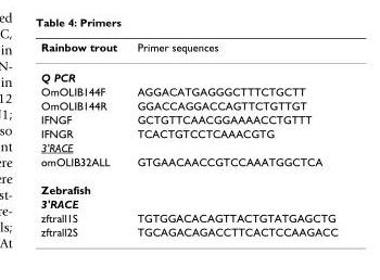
<table><thead><tr><td>Rainbow trout</td><td>Primer sequences</td></tr></thead><tbody><tr><td colspan="2">Q PCR</td></tr><tr><td>OmOLIB144F</td><td>AGGACATGAGGGCTTTCTGCTT</td></tr><tr><td>OmOLIB144R</td><td>GGACCAGGACCAGTTCTGTTGT</td></tr><tr><td>IFNGF</td><td>GCTGTTCAACGGAAAACCTGTTT</td></tr><tr><td>IFNGR</td><td>TCACTGTCCTCAAACGTG</td></tr><tr><td colspan="2">3&#x27;RACE</td></tr><tr><td>omOLIB32ALL</td><td>GTGAACAACCGTCCAAATGGCTCA</td></tr><tr><td colspan="2">Zebrafish</td></tr><tr><td colspan="2">3&#x27;RACE</td></tr><tr><td>zftrall1S</td><td>TGTGGACACAGTTACTGTATGAGCTG</td></tr><tr><td>zftrall2S</td><td>TGCAGACAGACCTTCACTCCAAGACC</td></tr></tbody></table>